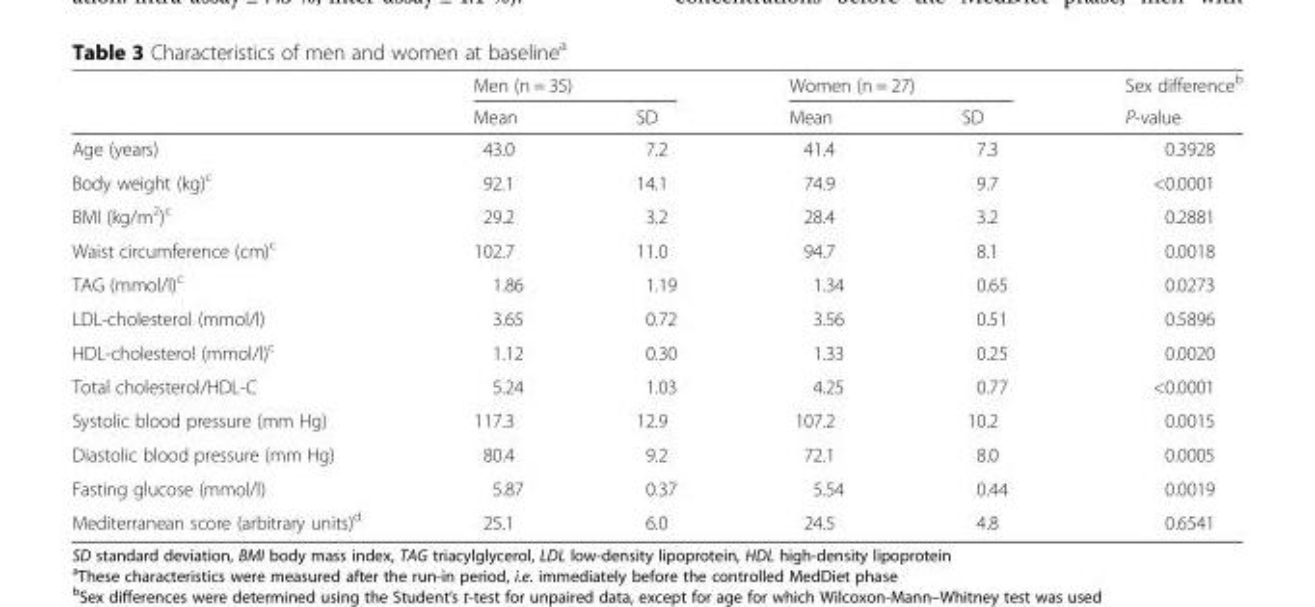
<table><thead><tr><td rowspan="2"></td><td colspan="2">Men (n = 35)</td><td colspan="2">Women (n = 27)</td><td rowspan="2">Sex difference<sup>b</sup> P-value</td></tr><tr><td>Mean</td><td>SD</td><td>Mean</td><td>SD</td></tr></thead><tbody><tr><td>Age (years)</td><td>43.0</td><td>7.2</td><td>41.4</td><td>7.3</td><td>0.3928</td></tr><tr><td>Body weight (kg)<sup>c</sup></td><td>92.1</td><td>14.1</td><td>74.9</td><td>9.7</td><td>&lt;0.0001</td></tr><tr><td>BMI (kg/m<sup>2</sup>)<sup>c</sup></td><td>29.2</td><td>3.2</td><td>28.4</td><td>3.2</td><td>0.2881</td></tr><tr><td>Waist circumference (cm)<sup>c</sup></td><td>102.7</td><td>11.0</td><td>94.7</td><td>8.1</td><td>0.0018</td></tr><tr><td>TAG (mmol/l)<sup>c</sup></td><td>1.86</td><td>1.19</td><td>1.34</td><td>0.65</td><td>0.0273</td></tr><tr><td>LDL-cholesterol (mmol/l)</td><td>3.65</td><td>0.72</td><td>3.56</td><td>0.51</td><td>0.5896</td></tr><tr><td>HDL-cholesterol (mmol/l)<sup>c</sup></td><td>1.12</td><td>0.30</td><td>1.33</td><td>0.25</td><td>0.0020</td></tr><tr><td>Total cholesterol/HDL-C</td><td>5.24</td><td>1.03</td><td>4.25</td><td>0.77</td><td>&lt;0.0001</td></tr><tr><td>Systolic blood pressure (mm Hg)</td><td>117.3</td><td>12.9</td><td>107.2</td><td>10.2</td><td>0.0015</td></tr><tr><td>Diastolic blood pressure (mm Hg)</td><td>80.4</td><td>9.2</td><td>72.1</td><td>8.0</td><td>0.0005</td></tr><tr><td>Fasting glucose (mmol/l)</td><td>5.87</td><td>0.37</td><td>5.54</td><td>0.44</td><td>0.0019</td></tr><tr><td>Mediterranean score (arbitrary units)<sup>d</sup></td><td>25.1</td><td>6.0</td><td>24.5</td><td>4.8</td><td>0.6541</td></tr></tbody></table>